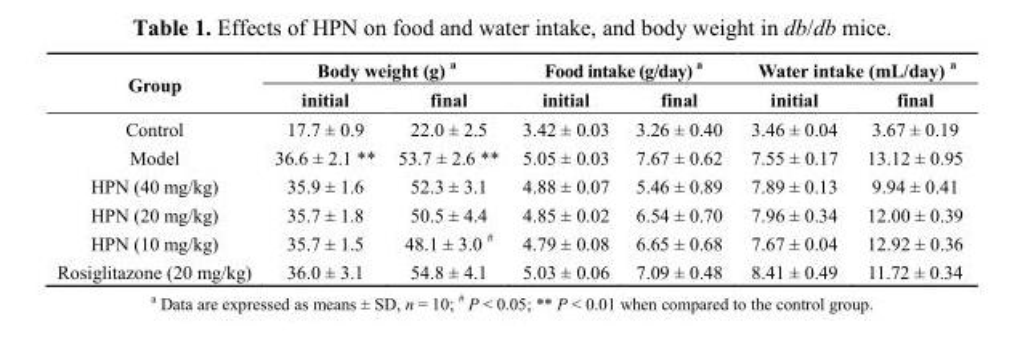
<table><thead><tr><td rowspan="2">Group</td><td colspan="2">Body weight (g) <sup>a</sup></td><td colspan="2">Food intake (g/day) <sup>a</sup></td><td colspan="2">Water intake (mL/day) <sup>a</sup></td></tr><tr><td>initial</td><td>final</td><td>initial</td><td>final</td><td>initial</td><td>final</td></tr></thead><tbody><tr><td>Control</td><td>17.7 ± 0.9</td><td>22.0 ± 2.5</td><td>3.42 ± 0.03</td><td>3.26 ± 0.40</td><td>3.46 ± 0.04</td><td>3.67 ± 0.19</td></tr><tr><td>Model</td><td>36.6 ± 2.1 **</td><td>53.7 ± 2.6 **</td><td>5.05 ± 0.03</td><td>7.67 ± 0.62</td><td>7.55 ± 0.17</td><td>13.12 ± 0.95</td></tr><tr><td>HPN (40 mg/kg)</td><td>35.9 ± 1.6</td><td>52.3 ± 3.1</td><td>4.88 ± 0.07</td><td>5.46 ± 0.89</td><td>7.89 ± 0.13</td><td>9.94 ± 0.41</td></tr><tr><td>HPN (20 mg/kg)</td><td>35.7 ± 1.8</td><td>50.5 ± 4.4</td><td>4.85 ± 0.02</td><td>6.54 ± 0.70</td><td>7.96 ± 0.34</td><td>12.00 ± 0.39</td></tr><tr><td>HPN (10 mg/kg)</td><td>35.7 ± 1.5</td><td>48.1 ± 3.0 <sup>#</sup></td><td>4.79 ± 0.08</td><td>6.65 ± 0.68</td><td>7.67 ± 0.04</td><td>12.92 ± 0.36</td></tr><tr><td>Rosiglitazone (20 mg/kg)</td><td>36.0 ± 3.1</td><td>54.8 ± 4.1</td><td>5.03 ± 0.06</td><td>7.09 ± 0.48</td><td>8.41 ± 0.49</td><td>11.72 ± 0.34</td></tr></tbody></table>